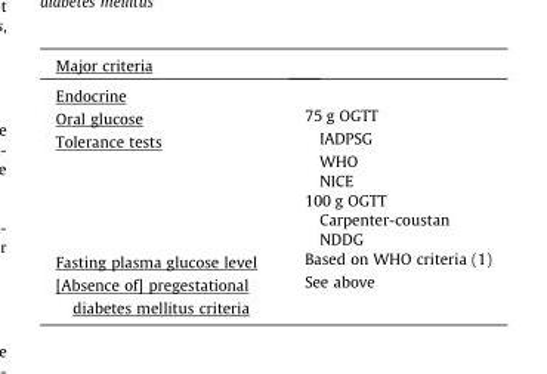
<table><thead><tr><td>Major criteria</td><td></td></tr></thead><tbody><tr><td colspan="2">Endocrine</td></tr><tr><td>Oral glucose</td><td>75 g OGTT</td></tr><tr><td rowspan="6">Tolerance tests</td><td>IADPSG</td></tr><tr><td>WHO</td></tr><tr><td>NICE</td></tr><tr><td>100 g OGTT</td></tr><tr><td>Carpenter-coustan</td></tr><tr><td>NDDG</td></tr><tr><td>Fasting plasma glucose level</td><td>Based on WHO criteria (1)</td></tr><tr><td>[Absence of] pregestational diabetes mellitus criteria</td><td>See above</td></tr></tbody></table>